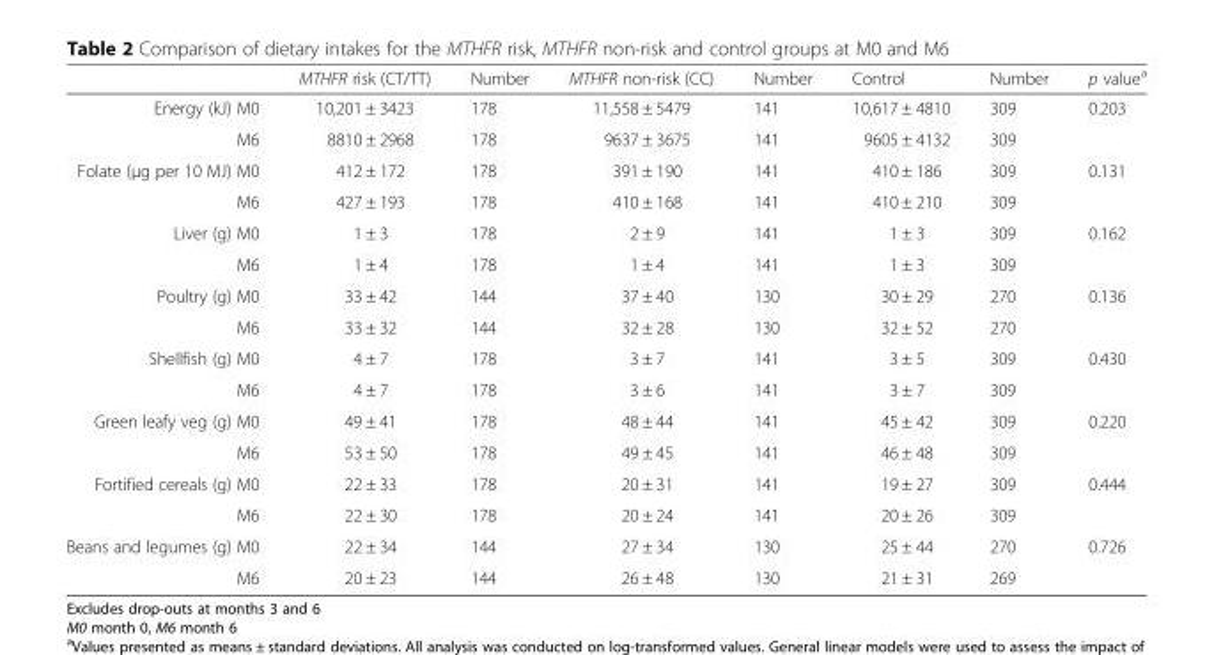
<table><thead><tr><td></td><td>MTHFR risk (CT/TT)</td><td>Number</td><td>MTHFR non-risk (CC)</td><td>Number</td><td>Control</td><td>Number</td><td>p value<sup>a</sup></td></tr></thead><tbody><tr><td>Energy (kJ) M0</td><td>10,201 ± 3423</td><td>178</td><td>11,558 ± 5479</td><td>141</td><td>10,617 ± 4810</td><td>309</td><td rowspan="2">0.203</td></tr><tr><td>M6</td><td>8810 ± 2968</td><td>178</td><td>9637 ± 3675</td><td>141</td><td>9605 ± 4132</td><td>309</td></tr><tr><td>Folate (μg per 10 MJ) M0</td><td>412 ± 172</td><td>178</td><td>391 ± 190</td><td>141</td><td>410 ± 186</td><td>309</td><td rowspan="2">0.131</td></tr><tr><td>M6</td><td>427 ± 193</td><td>178</td><td>410 ± 168</td><td>141</td><td>410 ± 210</td><td>309</td></tr><tr><td>Liver (g) M0</td><td>1 ± 3</td><td>178</td><td>2 ± 9</td><td>141</td><td>1 ± 3</td><td>309</td><td rowspan="2">0.162</td></tr><tr><td>M6</td><td>1 ± 4</td><td>178</td><td>1 ± 4</td><td>141</td><td>1 ± 3</td><td>309</td></tr><tr><td>Poultry (g) M0</td><td>33 ± 42</td><td>144</td><td>37 ± 40</td><td>130</td><td>30 ± 29</td><td>270</td><td rowspan="2">0.136</td></tr><tr><td>M6</td><td>33 ± 32</td><td>144</td><td>32 ± 28</td><td>130</td><td>32 ± 52</td><td>270</td></tr><tr><td>Shellfish (g) M0</td><td>4 ± 7</td><td>178</td><td>3 ± 7</td><td>141</td><td>3 ± 5</td><td>309</td><td rowspan="2">0.430</td></tr><tr><td>M6</td><td>4 ± 7</td><td>178</td><td>3 ± 6</td><td>141</td><td>3 ± 7</td><td>309</td></tr><tr><td>Green leafy veg (g) M0</td><td>49 ± 41</td><td>178</td><td>48 ± 44</td><td>141</td><td>45 ± 42</td><td>309</td><td rowspan="2">0.220</td></tr><tr><td>M6</td><td>53 ± 50</td><td>178</td><td>49 ± 45</td><td>141</td><td>46 ± 48</td><td>309</td></tr><tr><td>Fortified cereals (g) M0</td><td>22 ± 33</td><td>178</td><td>20 ± 31</td><td>141</td><td>19 ± 27</td><td>309</td><td rowspan="2">0.444</td></tr><tr><td>M6</td><td>22 ± 30</td><td>178</td><td>20 ± 24</td><td>141</td><td>20 ± 26</td><td>309</td></tr><tr><td>Beans and legumes (g) M0</td><td>22 ± 34</td><td>144</td><td>27 ± 34</td><td>130</td><td>25 ± 44</td><td>270</td><td rowspan="2">0.726</td></tr><tr><td>M6</td><td>20 ± 23</td><td>144</td><td>26 ± 48</td><td>130</td><td>21 ± 31</td><td>269</td></tr></tbody></table>